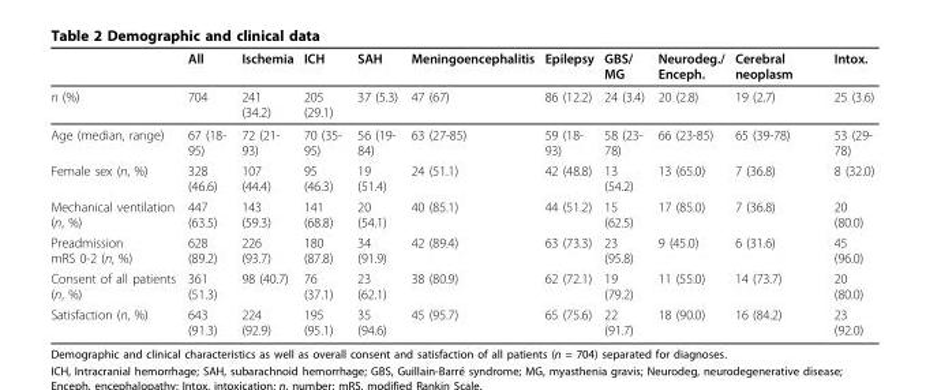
<table><thead><tr><td></td><td>All</td><td>Ischemia</td><td>ICH</td><td>SAH</td><td>Meningoencephalitis</td><td>Epilepsy</td><td>GBS/ MG</td><td>Neurodeg./ Enceph.</td><td>Cerebral neoplasm</td><td>Intox.</td></tr></thead><tbody><tr><td>n (%)</td><td>704</td><td>241 (34.2)</td><td>205 (29.1)</td><td>37 (5.3)</td><td>47 (67)</td><td>86 (12.2)</td><td>24 (3.4)</td><td>20 (2.8)</td><td>19 (2.7)</td><td>25 (3.6)</td></tr><tr><td>Age (median, range)</td><td>67 (18- 95)</td><td>72 (21- 93)</td><td>70 (35- 95)</td><td>56 (19- 84)</td><td>63 (27-85)</td><td>59 (18- 93)</td><td>58 (23- 78)</td><td>66 (23-85)</td><td>65 (39-78)</td><td>53 (29- 78)</td></tr><tr><td>Female sex (n, %)</td><td>328 (46.6)</td><td>107 (44.4)</td><td>95 (46.3)</td><td>19 (51.4)</td><td>24 (51.1)</td><td>42 (48.8)</td><td>13 (54.2)</td><td>13 (65.0)</td><td>7 (36.8)</td><td>8 (32.0)</td></tr><tr><td>Mechanical ventilation (n, %)</td><td>447 (63.5)</td><td>143 (59.3)</td><td>141 (68.8)</td><td>20 (54.1)</td><td>40 (85.1)</td><td>44 (51.2)</td><td>15 (62.5)</td><td>17 (85.0)</td><td>7 (36.8)</td><td>20 (80.0)</td></tr><tr><td>Preadmission mRS 0-2 (n, %)</td><td>628 (89.2)</td><td>226 (93.7)</td><td>180 (87.8)</td><td>34 (91.9)</td><td>42 (89.4)</td><td>63 (73.3)</td><td>23 (95.8)</td><td>9 (45.0)</td><td>6 (31.6)</td><td>45 (96.0)</td></tr><tr><td>Consent of all patients (n, %)</td><td>361 (51.3)</td><td>98 (40.7)</td><td>76 (37.1)</td><td>23 (62.1)</td><td>38 (80.9)</td><td>62 (72.1)</td><td>19 (79.2)</td><td>11 (55.0)</td><td>14 (73.7)</td><td>20 (80.0)</td></tr><tr><td>Satisfaction (n, %)</td><td>643 (91.3)</td><td>224 (92.9)</td><td>195 (95.1)</td><td>35 (94.6)</td><td>45 (95.7)</td><td>65 (75.6)</td><td>22 (91.7)</td><td>18 (90.0)</td><td>16 (84.2)</td><td>23 (92.0)</td></tr></tbody></table>